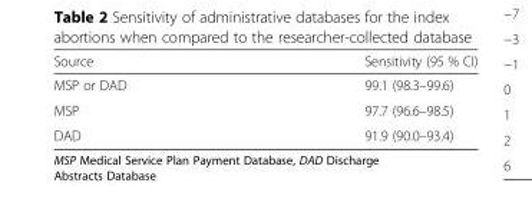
<table><thead><tr><td>Source</td><td>Sensitivity (95 % CI)</td></tr></thead><tbody><tr><td>MSP or DAD</td><td>99.1 (98.3–99.6)</td></tr><tr><td>MSP</td><td>97.7 (96.6–98.5)</td></tr><tr><td>DAD</td><td>91.9 (90.0–93.4)</td></tr></tbody></table>